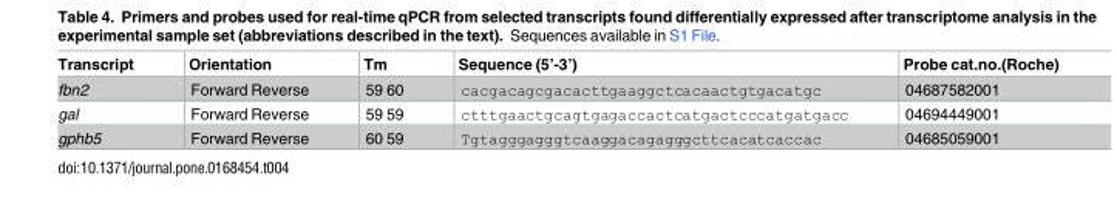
<table><thead><tr><td>Transcript</td><td>Orientation</td><td>Tm</td><td>Sequence (5’-3’)</td><td>Probe cat.no.(Roche)</td></tr></thead><tbody><tr><td>fbn2</td><td>Forward Reverse</td><td>59 60</td><td>cacgacagcgacacttgaaggctcacaactgtgacatgc</td><td>04687582001</td></tr><tr><td>gal</td><td>Forward Reverse</td><td>59 59</td><td>ctttgaactgcagtgagaccactcatgactcccatgatgacc</td><td>04694449001</td></tr><tr><td>gphb5</td><td>Forward Reverse</td><td>60 59</td><td>Tgtagggagggtcaaggacagagggcttcacatcaccac</td><td>04685059001</td></tr></tbody></table>